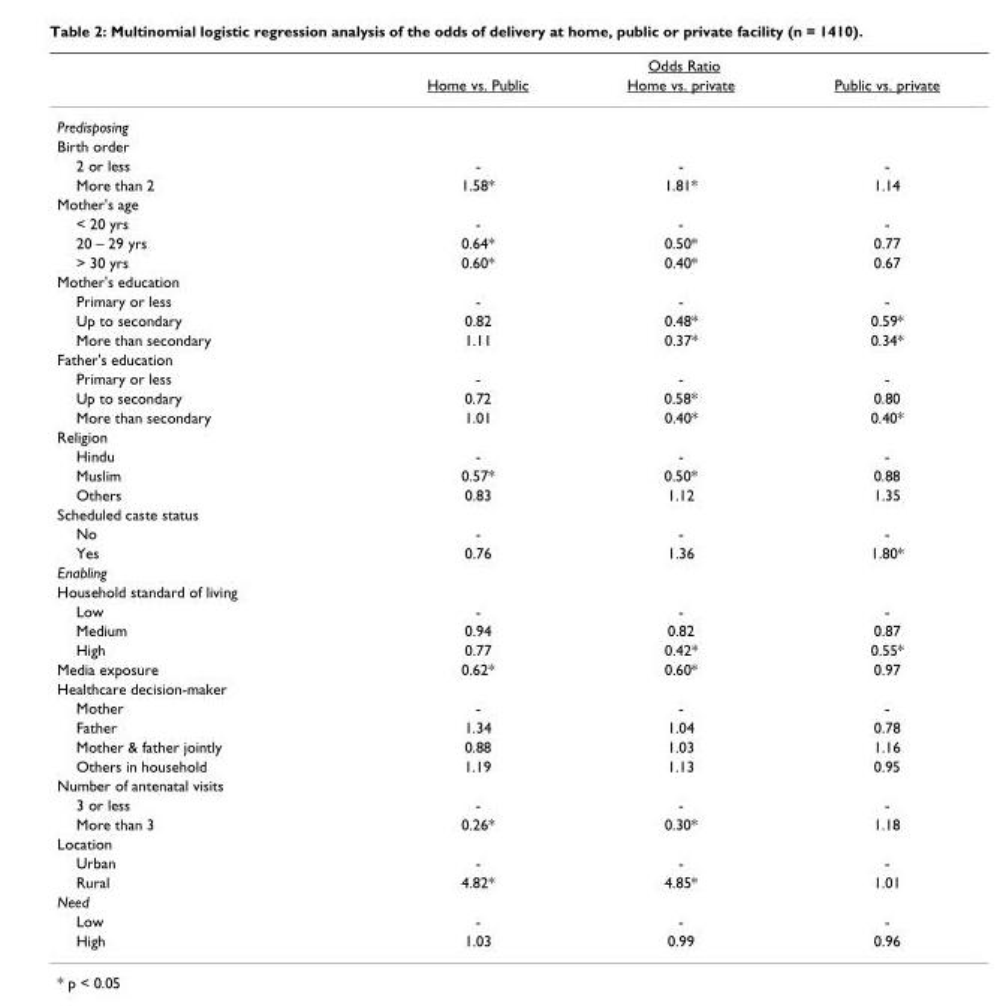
<table><thead><tr><td rowspan="2"></td><td colspan="3">Odds Ratio</td></tr><tr><td>Home vs. Public</td><td>Home vs. private</td><td>Public vs. private</td></tr></thead><tbody><tr><td colspan="4">Predisposing</td></tr><tr><td colspan="4">Birth order</td></tr><tr><td>2 or less</td><td>-</td><td>-</td><td>-</td></tr><tr><td>More than 2</td><td>1.58*</td><td>1.81*</td><td>1.14</td></tr><tr><td colspan="4">Mother&#x27;s age</td></tr><tr><td>&lt; 20 yrs</td><td>-</td><td>-</td><td>-</td></tr><tr><td>20 – 29 yrs</td><td>0.64*</td><td>0.50*</td><td>0.77</td></tr><tr><td>&gt; 30 yrs</td><td>0.60*</td><td>0.40*</td><td>0.67</td></tr><tr><td colspan="4">Mother&#x27;s education</td></tr><tr><td>Primary or less</td><td>-</td><td>-</td><td>-</td></tr><tr><td>Up to secondary</td><td>0.82</td><td>0.48*</td><td>0.59*</td></tr><tr><td>More than secondary</td><td>1.11</td><td>0.37*</td><td>0.34*</td></tr><tr><td colspan="4">Father&#x27;s education</td></tr><tr><td>Primary or less</td><td>-</td><td>-</td><td>-</td></tr><tr><td>Up to secondary</td><td>0.72</td><td>0.58*</td><td>0.80</td></tr><tr><td>More than secondary</td><td>1.01</td><td>0.40*</td><td>0.40*</td></tr><tr><td colspan="4">Religion</td></tr><tr><td>Hindu</td><td>-</td><td>-</td><td>-</td></tr><tr><td>Muslim</td><td>0.57*</td><td>0.50*</td><td>0.88</td></tr><tr><td>Others</td><td>0.83</td><td>1.12</td><td>1.35</td></tr><tr><td colspan="4">Scheduled caste status</td></tr><tr><td>No</td><td>-</td><td>-</td><td>-</td></tr><tr><td>Yes</td><td>0.76</td><td>1.36</td><td>1.80*</td></tr><tr><td colspan="4">Enabling</td></tr><tr><td colspan="4">Household standard of living</td></tr><tr><td>Low</td><td>-</td><td>-</td><td>-</td></tr><tr><td>Medium</td><td>0.94</td><td>0.82</td><td>0.87</td></tr><tr><td>High</td><td>0.77</td><td>0.42*</td><td>0.55*</td></tr><tr><td>Media exposure</td><td>0.62*</td><td>0.60*</td><td>0.97</td></tr><tr><td colspan="4">Healthcare decision-maker</td></tr><tr><td>Mother</td><td>-</td><td>-</td><td>-</td></tr><tr><td>Father</td><td>1.34</td><td>1.04</td><td>0.78</td></tr><tr><td>Mother &amp; father jointly</td><td>0.88</td><td>1.03</td><td>1.16</td></tr><tr><td>Others in household</td><td>1.19</td><td>1.13</td><td>0.95</td></tr><tr><td colspan="4">Number of antenatal visits</td></tr><tr><td>3 or less</td><td>-</td><td>-</td><td>-</td></tr><tr><td>More than 3</td><td>0.26*</td><td>0.30*</td><td>1.18</td></tr><tr><td colspan="4">Location</td></tr><tr><td>Urban</td><td>-</td><td>-</td><td>-</td></tr><tr><td>Rural</td><td>4.82*</td><td>4.85*</td><td>1.01</td></tr><tr><td colspan="4">Need</td></tr><tr><td>Low</td><td>-</td><td>-</td><td>-</td></tr><tr><td>High</td><td>1.03</td><td>0.99</td><td>0.96</td></tr></tbody></table>